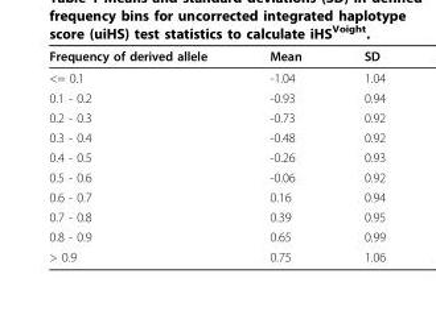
<table><thead><tr><td>Frequency of derived allele</td><td>Mean</td><td>SD</td></tr></thead><tbody><tr><td>&lt;= 0.1</td><td>-1.04</td><td>1.04</td></tr><tr><td>0.1 - 0.2</td><td>-0.93</td><td>0.94</td></tr><tr><td>0.2 - 0.3</td><td>-0.73</td><td>0.92</td></tr><tr><td>0.3 - 0.4</td><td>-0.48</td><td>0.92</td></tr><tr><td>0.4 - 0.5</td><td>-0.26</td><td>0.93</td></tr><tr><td>0.5 - 0.6</td><td>-0.06</td><td>0.92</td></tr><tr><td>0.6 - 0.7</td><td>0.16</td><td>0.94</td></tr><tr><td>0.7 - 0.8</td><td>0.39</td><td>0.95</td></tr><tr><td>0.8 - 0.9</td><td>0.65</td><td>0.99</td></tr><tr><td>&gt; 0.9</td><td>0.75</td><td>1.06</td></tr></tbody></table>